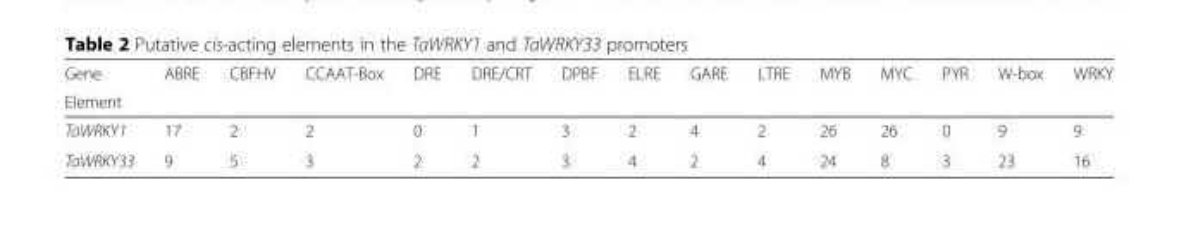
<table><thead><tr><td rowspan="2">Gene Element</td><td rowspan="2">ABRE</td><td rowspan="2">CBFHV</td><td rowspan="2">CCAAT-Box</td><td rowspan="2">DRE</td><td rowspan="2">DRE/CRT</td><td rowspan="2">DPBF</td><td rowspan="2">ELRE</td><td rowspan="2">GARE</td><td rowspan="2">LTRE</td><td rowspan="2">MYB</td><td rowspan="2">MYC</td><td rowspan="2">PYR</td><td rowspan="2">W-box</td><td rowspan="2">WRKY</td></tr><tr></tr></thead><tbody><tr><td>TaWRKY1</td><td>17</td><td>2</td><td>2</td><td>0</td><td>1</td><td>3</td><td>2</td><td>4</td><td>2</td><td>26</td><td>26</td><td>0</td><td>9</td><td>9</td></tr><tr><td>TaWRKY33</td><td>9</td><td>5</td><td>3</td><td>2</td><td>2</td><td>3</td><td>4</td><td>2</td><td>4</td><td>24</td><td>8</td><td>3</td><td>23</td><td>16</td></tr></tbody></table>